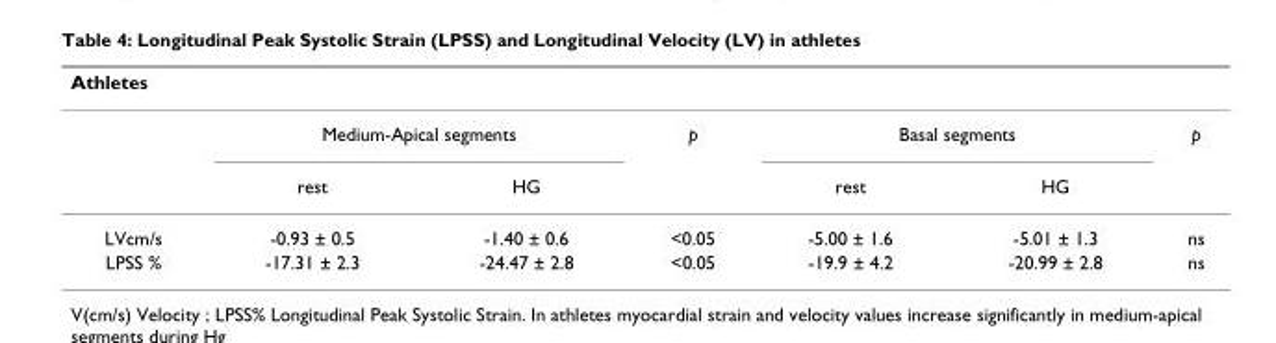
<table><thead><tr><td colspan="7">Athletes</td></tr><tr><td rowspan="2"></td><td colspan="2">Medium-Apical segments</td><td rowspan="2">p</td><td colspan="2">Basal segments</td><td rowspan="2">p</td></tr><tr><td>rest</td><td>HG</td><td>rest</td><td>HG</td></tr></thead><tbody><tr><td>LVcm/s</td><td>-0.93 ± 0.5</td><td>-1.40 ± 0.6</td><td>&lt;0.05</td><td>-5.00 ± 1.6</td><td>-5.01 ± 1.3</td><td>ns</td></tr><tr><td>LPSS %</td><td>-17.31 ± 2.3</td><td>-24.47 ± 2.8</td><td>&lt;0.05</td><td>-19.9 ± 4.2</td><td>-20.99 ± 2.8</td><td>ns</td></tr></tbody></table>